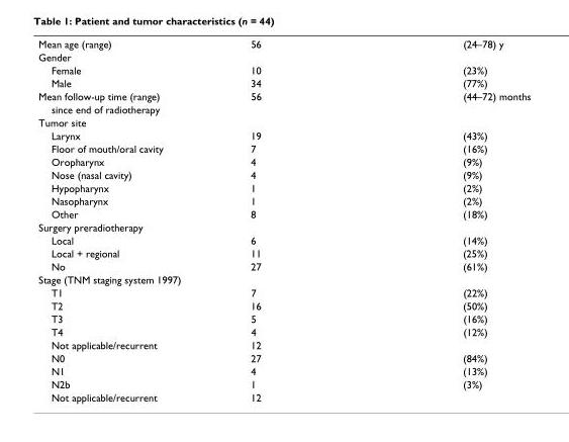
<table><tbody><tr><td>Mean age (range)</td><td>56</td><td>(24–78) y</td></tr><tr><td colspan="3">Gender</td></tr><tr><td>Female</td><td>10</td><td>(23%)</td></tr><tr><td>Male</td><td>34</td><td>(77%)</td></tr><tr><td>Mean follow-up time (range)</td><td>56</td><td>(44–72) months</td></tr><tr><td colspan="3">since end of radiotherapy</td></tr><tr><td colspan="3">Tumor site</td></tr><tr><td>Larynx</td><td>19</td><td>(43%)</td></tr><tr><td>Floor of mouth/oral cavity</td><td>7</td><td>(16%)</td></tr><tr><td>Oropharynx</td><td>4</td><td>(9%)</td></tr><tr><td>Nose (nasal cavity)</td><td>4</td><td>(9%)</td></tr><tr><td>Hypopharynx</td><td>1</td><td>(2%)</td></tr><tr><td>Nasopharynx</td><td>1</td><td>(2%)</td></tr><tr><td>Other</td><td>8</td><td>(18%)</td></tr><tr><td colspan="3">Surgery preradiotherapy</td></tr><tr><td>Local</td><td>6</td><td>(14%)</td></tr><tr><td>Local + regional</td><td>11</td><td>(25%)</td></tr><tr><td>No</td><td>27</td><td>(61%)</td></tr><tr><td colspan="3">Stage (TNM staging system 1997)</td></tr><tr><td>T1</td><td>7</td><td>(22%)</td></tr><tr><td>T2</td><td>16</td><td>(50%)</td></tr><tr><td>T3</td><td>5</td><td>(16%)</td></tr><tr><td>T4</td><td>4</td><td>(12%)</td></tr><tr><td>Not applicable/recurrent</td><td>12</td><td></td></tr><tr><td>N0</td><td>27</td><td>(84%)</td></tr><tr><td>N1</td><td>4</td><td>(13%)</td></tr><tr><td>N2b</td><td>1</td><td>(3%)</td></tr><tr><td>Not applicable/recurrent</td><td>12</td><td></td></tr></tbody></table>